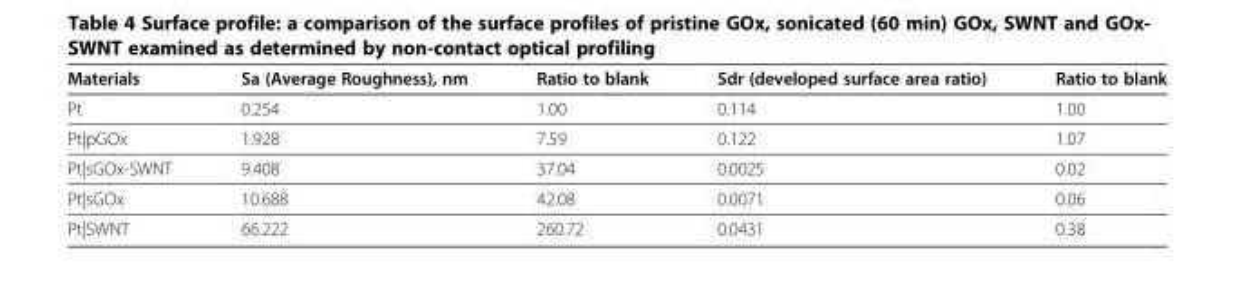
<table><thead><tr><td>Materials</td><td>Sa (Average Roughness), nm</td><td>Ratio to blank</td><td>Sdr (developed surface area ratio)</td><td>Ratio to blank</td></tr></thead><tbody><tr><td>Pt</td><td>0.254</td><td>1.00</td><td>0.114</td><td>1.00</td></tr><tr><td>Pt|pGOx</td><td>1.928</td><td>7.59</td><td>0.122</td><td>1.07</td></tr><tr><td>Pt|sGOx-SWNT</td><td>9.408</td><td>37.04</td><td>0.0025</td><td>0.02</td></tr><tr><td>Pt|sGOx</td><td>10.688</td><td>42.08</td><td>0.0071</td><td>0.06</td></tr><tr><td>Pt|SWNT</td><td>66.222</td><td>260.72</td><td>0.0431</td><td>0.38</td></tr></tbody></table>